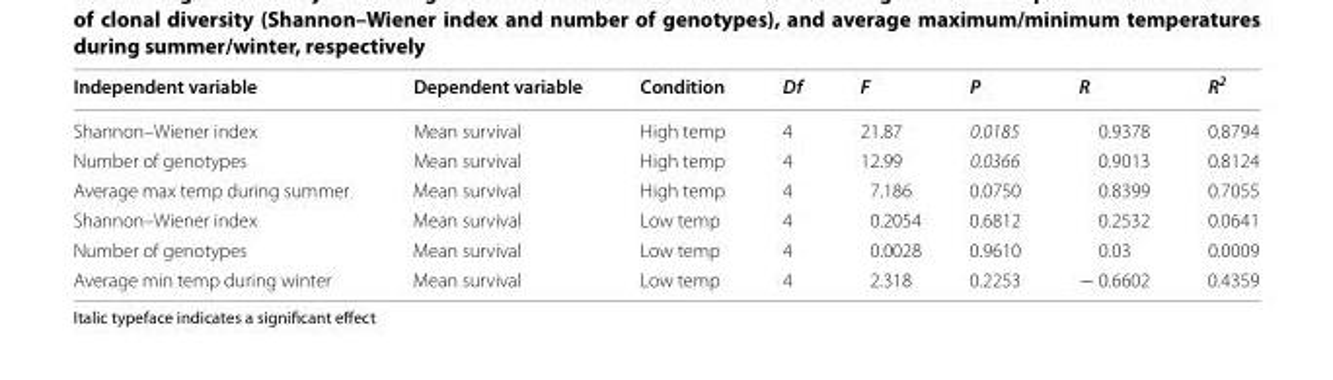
<table><thead><tr><td>Independent variable</td><td>Dependent variable</td><td>Condition</td><td>Df</td><td>F</td><td>P</td><td>R</td><td>R<sup>2</sup></td></tr></thead><tbody><tr><td>Shannon–Wiener index</td><td>Mean survival</td><td>High temp</td><td>4</td><td>21.87</td><td>0.0185</td><td>0.9378</td><td>0.8794</td></tr><tr><td>Number of genotypes</td><td>Mean survival</td><td>High temp</td><td>4</td><td>12.99</td><td>0.0366</td><td>0.9013</td><td>0.8124</td></tr><tr><td>Average max temp during summer</td><td>Mean survival</td><td>High temp</td><td>4</td><td>7.186</td><td>0.0750</td><td>0.8399</td><td>0.7055</td></tr><tr><td>Shannon–Wiener index</td><td>Mean survival</td><td>Low temp</td><td>4</td><td>0.2054</td><td>0.6812</td><td>0.2532</td><td>0.0641</td></tr><tr><td>Number of genotypes</td><td>Mean survival</td><td>Low temp</td><td>4</td><td>0.0028</td><td>0.9610</td><td>0.03</td><td>0.0009</td></tr><tr><td>Average min temp during winter</td><td>Mean survival</td><td>Low temp</td><td>4</td><td>2.318</td><td>0.2253</td><td>− 0.6602</td><td>0.4359</td></tr></tbody></table>